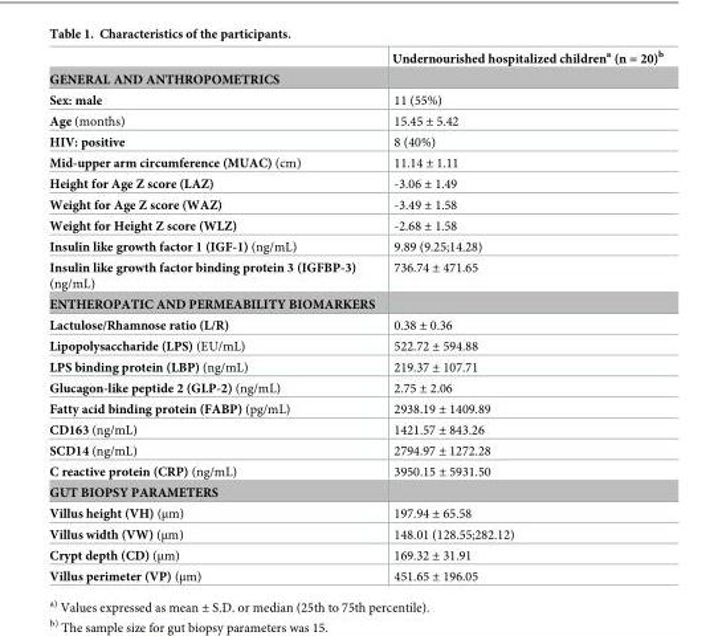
<table><thead><tr><td></td><td>Undernourished hospitalized children<sup>a</sup> (n = 20)<sup>b</sup></td></tr></thead><tbody><tr><td colspan="2">GENERAL AND ANTHROPOMETRICS</td></tr><tr><td>Sex: male</td><td>11 (55%)</td></tr><tr><td>Age (months)</td><td>15.45 ± 5.42</td></tr><tr><td>HIV: positive</td><td>8 (40%)</td></tr><tr><td>Mid-upper arm circumference (MUAC) (cm)</td><td>11.14 ± 1.11</td></tr><tr><td>Height for Age Z score (LAZ)</td><td>-3.06 ± 1.49</td></tr><tr><td>Weight for Age Z score (WAZ)</td><td>-3.49 ± 1.58</td></tr><tr><td>Weight for Height Z score (WLZ)</td><td>-2.68 ± 1.58</td></tr><tr><td>Insulin like growth factor 1 (IGF-1) (ng/mL)</td><td>9.89 (9.25;14.28)</td></tr><tr><td>Insulin like growth factor binding protein 3 (IGFBP-3) (ng/mL)</td><td>736.74 ± 471.65</td></tr><tr><td colspan="2">ENTHEROPATIC AND PERMEABILITY BIOMARKERS</td></tr><tr><td>Lactulose/Rhamnose ratio (L/R)</td><td>0.38 ± 0.36</td></tr><tr><td>Lipopolysaccharide (LPS) (EU/mL)</td><td>522.72 ± 594.88</td></tr><tr><td>LPS binding protein (LBP) (ng/mL)</td><td>219.37 ± 107.71</td></tr><tr><td>Glucagon-like peptide 2 (GLP-2) (ng/mL)</td><td>2.75 ± 2.06</td></tr><tr><td>Fatty acid binding protein (FABP) (pg/mL)</td><td>2938.19 ± 1409.89</td></tr><tr><td>CD163 (ng/mL)</td><td>1421.57 ± 843.26</td></tr><tr><td>SCD14 (ng/mL)</td><td>2794.97 ± 1272.28</td></tr><tr><td>C reactive protein (CRP) (ng/mL)</td><td>3950.15 ± 5931.50</td></tr><tr><td colspan="2">GUT BIOPSY PARAMETERS</td></tr><tr><td>Villus height (VH) (μm)</td><td>197.94 ± 65.58</td></tr><tr><td>Villus width (VW) (μm)</td><td>148.01 (128.55;282.12)</td></tr><tr><td>Crypt depth (CD) (μm)</td><td>169.32 ± 31.91</td></tr><tr><td>Villus perimeter (VP) (μm)</td><td>451.65 ± 196.05</td></tr></tbody></table>